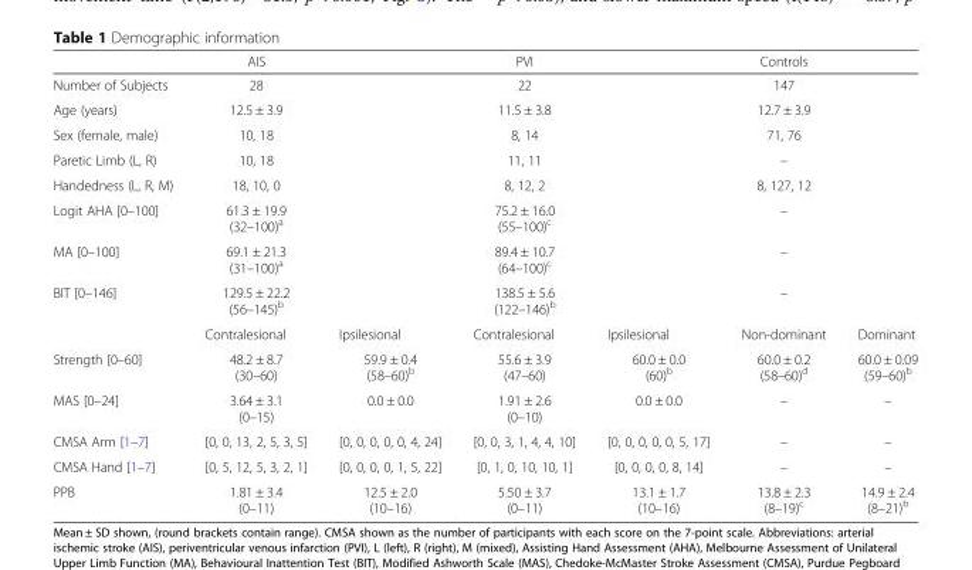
<table><thead><tr><td></td><td>AIS</td><td></td><td>PVI</td><td></td><td>Controls</td><td></td></tr></thead><tbody><tr><td>Number of Subjects</td><td>28</td><td></td><td>22</td><td></td><td>147</td><td></td></tr><tr><td>Age (years)</td><td>12.5 ± 3.9</td><td></td><td>11.5 ± 3.8</td><td></td><td>12.7 ± 3.9</td><td></td></tr><tr><td>Sex (female, male)</td><td>10, 18</td><td></td><td>8, 14</td><td></td><td>71, 76</td><td></td></tr><tr><td>Paretic Limb (L, R)</td><td>10, 18</td><td></td><td>11, 11</td><td></td><td>–</td><td></td></tr><tr><td>Handedness (L, R, M)</td><td>18, 10, 0</td><td></td><td>8, 12, 2</td><td></td><td>8, 127, 12</td><td></td></tr><tr><td>Logit AHA [0–100]</td><td>61.3 ± 19.9 (32–100)<sup>a</sup></td><td></td><td>75.2 ± 16.0 (55–100)<sup>c</sup></td><td></td><td>–</td><td></td></tr><tr><td>MA [0–100]</td><td>69.1 ± 21.3 (31–100)<sup>a</sup></td><td></td><td>89.4 ± 10.7 (64–100)<sup>c</sup></td><td></td><td>–</td><td></td></tr><tr><td rowspan="2">BIT [0–146]</td><td>129.5 ± 22.2 (56–145)<sup>b</sup></td><td></td><td>138.5 ± 5.6 (122–146)<sup>b</sup></td><td></td><td>–</td><td></td></tr><tr><td>Contralesional</td><td>Ipsilesional</td><td>Contralesional</td><td>Ipsilesional</td><td>Non-dominant</td><td>Dominant</td></tr><tr><td>Strength [0–60]</td><td>48.2 ± 8.7 (30–60)</td><td>59.9 ± 0.4 (58–60)<sup>b</sup></td><td>55.6 ± 3.9 (47–60)</td><td>60.0 ± 0.0 (60)<sup>b</sup></td><td>60.0 ± 0.2 (58–60)<sup>d</sup></td><td>60.0 ± 0.09 (59–60)<sup>b</sup></td></tr><tr><td>MAS [0–24]</td><td>3.64 ± 3.1 (0–15)</td><td>0.0 ± 0.0</td><td>1.91 ± 2.6 (0–10)</td><td>0.0 ± 0.0</td><td>–</td><td>–</td></tr><tr><td>CMSA Arm [1–7]</td><td>[0, 0, 13, 2, 5, 3, 5]</td><td>[0, 0, 0, 0, 0, 4, 24]</td><td>[0, 0, 3, 1, 4, 4, 10]</td><td>[0, 0, 0, 0, 0, 5, 17]</td><td>–</td><td>–</td></tr><tr><td>CMSA Hand [1–7]</td><td>[0, 5, 12, 5, 3, 2, 1]</td><td>[0, 0, 0, 0, 1, 5, 22]</td><td>[0, 1, 0, 10, 10, 1]</td><td>[0, 0, 0, 0, 8, 14]</td><td>–</td><td>–</td></tr><tr><td>PPB</td><td>1.81 ± 3.4 (0–11)</td><td>12.5 ± 2.0 (10–16)</td><td>5.50 ± 3.7 (0–11)</td><td>13.1 ± 1.7 (10–16)</td><td>13.8 ± 2.3 (8–19)<sup>c</sup></td><td>14.9 ± 2.4 (8–21)<sup>b</sup></td></tr></tbody></table>